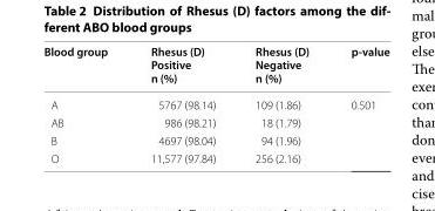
<table><thead><tr><td>Blood group</td><td>Rhesus (D) Positive n (%)</td><td>Rhesus (D) Negative n (%)</td><td>p-value</td></tr></thead><tbody><tr><td>A</td><td>5767 (98.14)</td><td>109 (1.86)</td><td rowspan="4">0.501</td></tr><tr><td>AB</td><td>986 (98.21)</td><td>18 (1.79)</td></tr><tr><td>B</td><td>4697 (98.04)</td><td>94 (1.96)</td></tr><tr><td>O</td><td>11,577 (97.84)</td><td>256 (2.16)</td></tr></tbody></table>